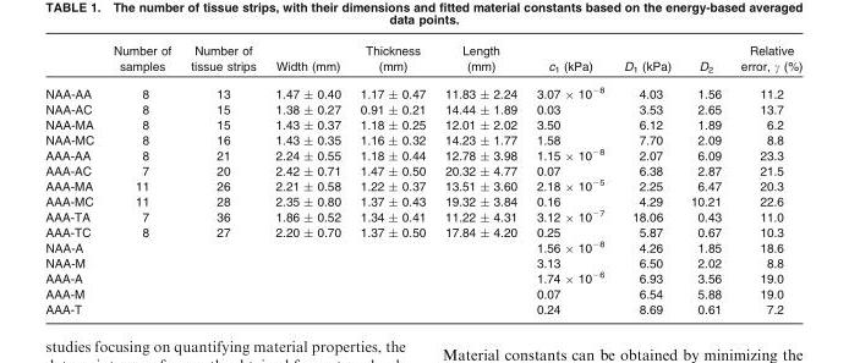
<table><thead><tr><td></td><td>Number of samples</td><td>Number of tissue strips</td><td>Width (mm)</td><td>Thickness (mm)</td><td>Length (mm)</td><td>c<sub>1</sub> (kPa)</td><td>D<sub>1</sub> (kPa)</td><td>D<sub>2</sub></td><td>Relative error, γ (%)</td></tr></thead><tbody><tr><td>NAA-AA</td><td>8</td><td>13</td><td>1.47 ± 0.40</td><td>1.17 ± 0.47</td><td>11.83 ± 2.24</td><td>3.07 × 10<sup>−8</sup></td><td>4.03</td><td>1.56</td><td>11.2</td></tr><tr><td>NAA-AC</td><td>8</td><td>15</td><td>1.38 ± 0.27</td><td>0.91 ± 0.21</td><td>14.44 ± 1.89</td><td>0.03</td><td>3.53</td><td>2.65</td><td>13.7</td></tr><tr><td>NAA-MA</td><td>8</td><td>15</td><td>1.43 ± 0.37</td><td>1.18 ± 0.25</td><td>12.01 ± 2.02</td><td>3.50</td><td>6.12</td><td>1.89</td><td>6.2</td></tr><tr><td>NAA-MC</td><td>8</td><td>16</td><td>1.43 ± 0.35</td><td>1.16 ± 0.32</td><td>14.23 ± 1.77</td><td>1.58</td><td>7.70</td><td>2.09</td><td>8.8</td></tr><tr><td>AAA-AA</td><td>8</td><td>21</td><td>2.24 ± 0.55</td><td>1.18 ± 0.44</td><td>12.78 ± 3.98</td><td>1.15 × 10<sup>−8</sup></td><td>2.07</td><td>6.09</td><td>23.3</td></tr><tr><td>AAA-AC</td><td>7</td><td>20</td><td>2.42 ± 0.71</td><td>1.47 ± 0.50</td><td>20.32 ± 4.77</td><td>0.07</td><td>6.38</td><td>2.87</td><td>21.5</td></tr><tr><td>AAA-MA</td><td>11</td><td>26</td><td>2.21 ± 0.58</td><td>1.22 ± 0.37</td><td>13.51 ± 3.60</td><td>2.18 × 10<sup>−5</sup></td><td>2.25</td><td>6.47</td><td>20.3</td></tr><tr><td>AAA-MC</td><td>11</td><td>28</td><td>2.35 ± 0.80</td><td>1.37 ± 0.43</td><td>19.32 ± 3.84</td><td>0.16</td><td>4.29</td><td>10.21</td><td>22.6</td></tr><tr><td>AAA-TA</td><td>7</td><td>36</td><td>1.86 ± 0.52</td><td>1.34 ± 0.41</td><td>11.22 ± 4.31</td><td>3.12 × 10<sup>−7</sup></td><td>18.06</td><td>0.43</td><td>11.0</td></tr><tr><td>AAA-TC</td><td>8</td><td>27</td><td>2.20 ± 0.70</td><td>1.37 ± 0.50</td><td>17.84 ± 4.20</td><td>0.25</td><td>5.87</td><td>0.67</td><td>10.3</td></tr><tr><td>NAA-A</td><td></td><td></td><td></td><td></td><td></td><td>1.56 × 10<sup>−8</sup></td><td>4.26</td><td>1.85</td><td>18.6</td></tr><tr><td>NAA-M</td><td></td><td></td><td></td><td></td><td></td><td>3.13</td><td>6.50</td><td>2.02</td><td>8.8</td></tr><tr><td>AAA-A</td><td></td><td></td><td></td><td></td><td></td><td>1.74 × 10<sup>−6</sup></td><td>6.93</td><td>3.56</td><td>19.0</td></tr><tr><td>AAA-M</td><td></td><td></td><td></td><td></td><td></td><td>0.07</td><td>6.54</td><td>5.88</td><td>19.0</td></tr><tr><td>AAA-T</td><td></td><td></td><td></td><td></td><td></td><td>0.24</td><td>8.69</td><td>0.61</td><td>7.2</td></tr></tbody></table>